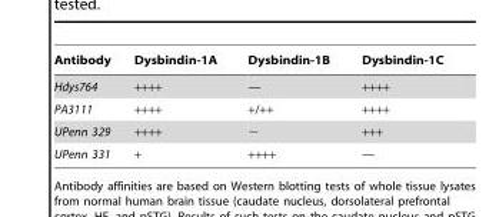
<table><thead><tr><td>Antibody</td><td>Dysbindin-1A</td><td>Dysbindin-1B</td><td>Dysbindin-1C</td></tr></thead><tbody><tr><td>Hdys764</td><td>++++</td><td>—</td><td>++++</td></tr><tr><td>PA3111</td><td>++++</td><td>+/++</td><td>++++</td></tr><tr><td>UPenn 329</td><td>++++</td><td>∼</td><td>+++</td></tr><tr><td>UPenn 331</td><td>+</td><td>++++</td><td>—</td></tr></tbody></table>